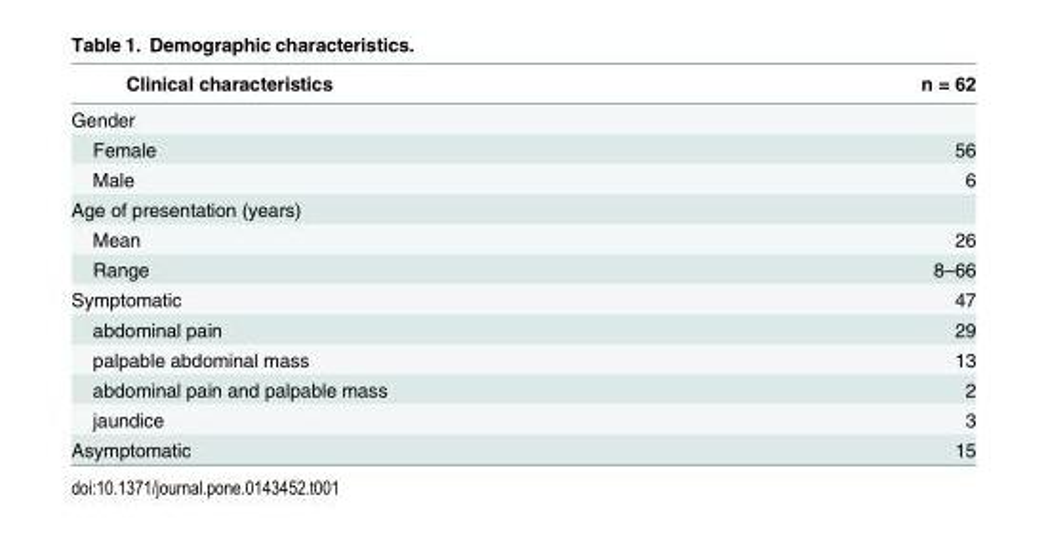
<table><thead><tr><td>Clinical characteristics</td><td>n = 62</td></tr></thead><tbody><tr><td colspan="2">Gender</td></tr><tr><td>Female</td><td>56</td></tr><tr><td>Male</td><td>6</td></tr><tr><td colspan="2">Age of presentation (years)</td></tr><tr><td>Mean</td><td>26</td></tr><tr><td>Range</td><td>8–66</td></tr><tr><td>Symptomatic</td><td>47</td></tr><tr><td>abdominal pain</td><td>29</td></tr><tr><td>palpable abdominal mass</td><td>13</td></tr><tr><td>abdominal pain and palpable mass</td><td>2</td></tr><tr><td>jaundice</td><td>3</td></tr><tr><td>Asymptomatic</td><td>15</td></tr></tbody></table>